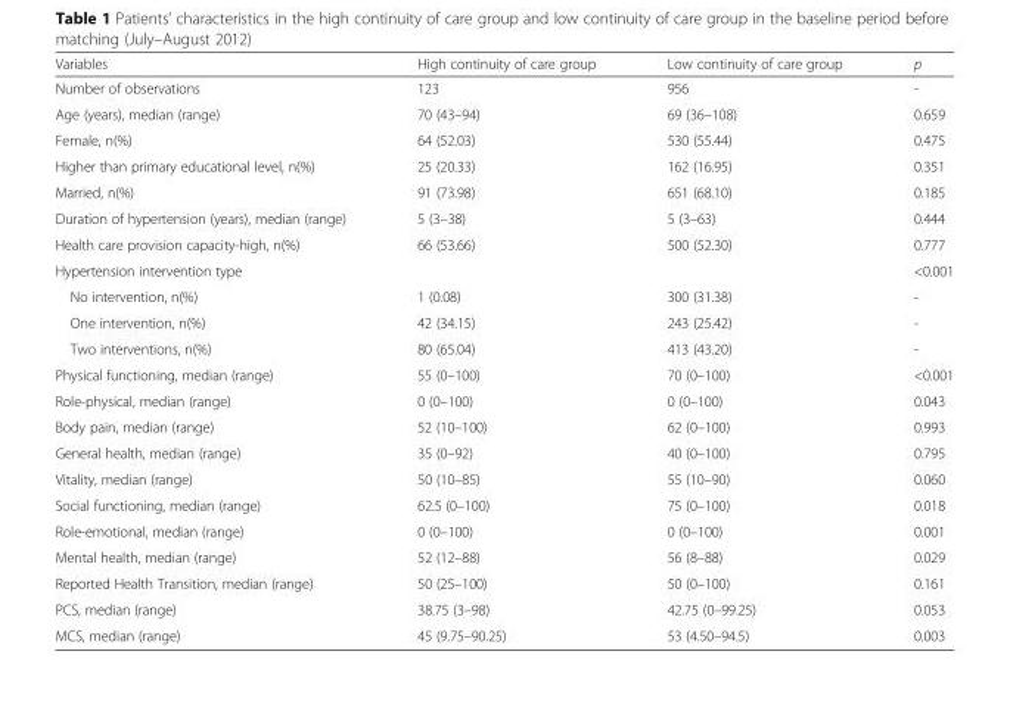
<table><thead><tr><td>Variables</td><td>High continuity of care group</td><td>Low continuity of care group</td><td>p</td></tr></thead><tbody><tr><td>Number of observations</td><td>123</td><td>956</td><td>-</td></tr><tr><td>Age (years), median (range)</td><td>70 (43–94)</td><td>69 (36–108)</td><td>0.659</td></tr><tr><td>Female, n(%)</td><td>64 (52.03)</td><td>530 (55.44)</td><td>0.475</td></tr><tr><td>Higher than primary educational level, n(%)</td><td>25 (20.33)</td><td>162 (16.95)</td><td>0.351</td></tr><tr><td>Married, n(%)</td><td>91 (73.98)</td><td>651 (68.10)</td><td>0.185</td></tr><tr><td>Duration of hypertension (years), median (range)</td><td>5 (3–38)</td><td>5 (3–63)</td><td>0.444</td></tr><tr><td>Health care provision capacity-high, n(%)</td><td>66 (53.66)</td><td>500 (52.30)</td><td>0.777</td></tr><tr><td>Hypertension intervention type</td><td></td><td></td><td>&lt;0.001</td></tr><tr><td>No intervention, n(%)</td><td>1 (0.08)</td><td>300 (31.38)</td><td>-</td></tr><tr><td>One intervention, n(%)</td><td>42 (34.15)</td><td>243 (25.42)</td><td>-</td></tr><tr><td>Two interventions, n(%)</td><td>80 (65.04)</td><td>413 (43.20)</td><td>-</td></tr><tr><td>Physical functioning, median (range)</td><td>55 (0–100)</td><td>70 (0–100)</td><td>&lt;0.001</td></tr><tr><td>Role-physical, median (range)</td><td>0 (0–100)</td><td>0 (0–100)</td><td>0.043</td></tr><tr><td>Body pain, median (range)</td><td>52 (10–100)</td><td>62 (0–100)</td><td>0.993</td></tr><tr><td>General health, median (range)</td><td>35 (0–92)</td><td>40 (0–100)</td><td>0.795</td></tr><tr><td>Vitality, median (range)</td><td>50 (10–85)</td><td>55 (10–90)</td><td>0.060</td></tr><tr><td>Social functioning, median (range)</td><td>62.5 (0–100)</td><td>75 (0–100)</td><td>0.018</td></tr><tr><td>Role-emotional, median (range)</td><td>0 (0–100)</td><td>0 (0–100)</td><td>0.001</td></tr><tr><td>Mental health, median (range)</td><td>52 (12–88)</td><td>56 (8–88)</td><td>0.029</td></tr><tr><td>Reported Health Transition, median (range)</td><td>50 (25–100)</td><td>50 (0–100)</td><td>0.161</td></tr><tr><td>PCS, median (range)</td><td>38.75 (3–98)</td><td>42.75 (0–99.25)</td><td>0.053</td></tr><tr><td>MCS, median (range)</td><td>45 (9.75–90.25)</td><td>53 (4.50–94.5)</td><td>0.003</td></tr></tbody></table>